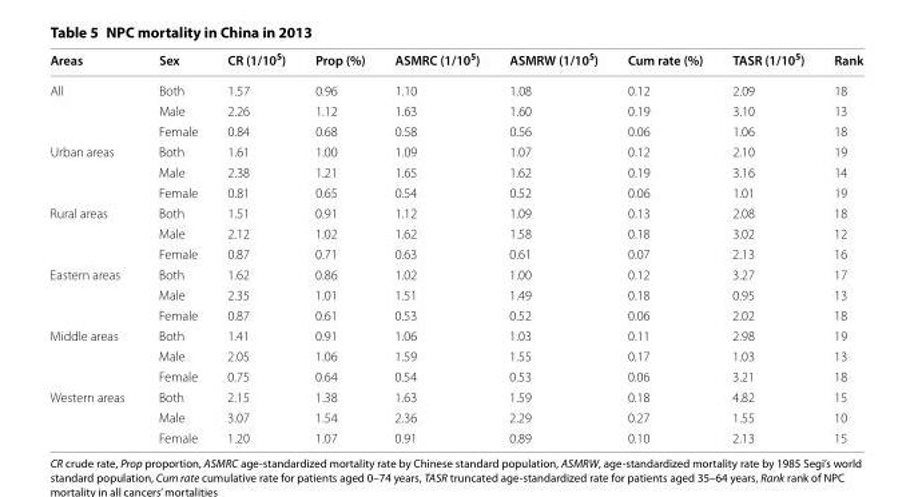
<table><thead><tr><td>Areas</td><td>Sex</td><td>CR (1/10<sup>5</sup>)</td><td>Prop (%)</td><td>ASMRC (1/10<sup>5</sup>)</td><td>ASMRW (1/10<sup>5</sup>)</td><td>Cum rate (%)</td><td>TASR (1/10<sup>5</sup>)</td><td>Rank</td></tr></thead><tbody><tr><td rowspan="3">All</td><td>Both</td><td>1.57</td><td>0.96</td><td>1.10</td><td>1.08</td><td>0.12</td><td>2.09</td><td>18</td></tr><tr><td>Male</td><td>2.26</td><td>1.12</td><td>1.63</td><td>1.60</td><td>0.19</td><td>3.10</td><td>13</td></tr><tr><td>Female</td><td>0.84</td><td>0.68</td><td>0.58</td><td>0.56</td><td>0.06</td><td>1.06</td><td>18</td></tr><tr><td rowspan="3">Urban areas</td><td>Both</td><td>1.61</td><td>1.00</td><td>1.09</td><td>1.07</td><td>0.12</td><td>2.10</td><td>19</td></tr><tr><td>Male</td><td>2.38</td><td>1.21</td><td>1.65</td><td>1.62</td><td>0.19</td><td>3.16</td><td>14</td></tr><tr><td>Female</td><td>0.81</td><td>0.65</td><td>0.54</td><td>0.52</td><td>0.06</td><td>1.01</td><td>19</td></tr><tr><td rowspan="3">Rural areas</td><td>Both</td><td>1.51</td><td>0.91</td><td>1.12</td><td>1.09</td><td>0.13</td><td>2.08</td><td>18</td></tr><tr><td>Male</td><td>2.12</td><td>1.02</td><td>1.62</td><td>1.58</td><td>0.18</td><td>3.02</td><td>12</td></tr><tr><td>Female</td><td>0.87</td><td>0.71</td><td>0.63</td><td>0.61</td><td>0.07</td><td>2.13</td><td>16</td></tr><tr><td rowspan="3">Eastern areas</td><td>Both</td><td>1.62</td><td>0.86</td><td>1.02</td><td>1.00</td><td>0.12</td><td>3.27</td><td>17</td></tr><tr><td>Male</td><td>2.35</td><td>1.01</td><td>1.51</td><td>1.49</td><td>0.18</td><td>0.95</td><td>13</td></tr><tr><td>Female</td><td>0.87</td><td>0.61</td><td>0.53</td><td>0.52</td><td>0.06</td><td>2.02</td><td>18</td></tr><tr><td rowspan="3">Middle areas</td><td>Both</td><td>1.41</td><td>0.91</td><td>1.06</td><td>1.03</td><td>0.11</td><td>2.98</td><td>19</td></tr><tr><td>Male</td><td>2.05</td><td>1.06</td><td>1.59</td><td>1.55</td><td>0.17</td><td>1.03</td><td>13</td></tr><tr><td>Female</td><td>0.75</td><td>0.64</td><td>0.54</td><td>0.53</td><td>0.06</td><td>3.21</td><td>18</td></tr><tr><td rowspan="3">Western areas</td><td>Both</td><td>2.15</td><td>1.38</td><td>1.63</td><td>1.59</td><td>0.18</td><td>4.82</td><td>15</td></tr><tr><td>Male</td><td>3.07</td><td>1.54</td><td>2.36</td><td>2.29</td><td>0.27</td><td>1.55</td><td>10</td></tr><tr><td>Female</td><td>1.20</td><td>1.07</td><td>0.91</td><td>0.89</td><td>0.10</td><td>2.13</td><td>15</td></tr></tbody></table>